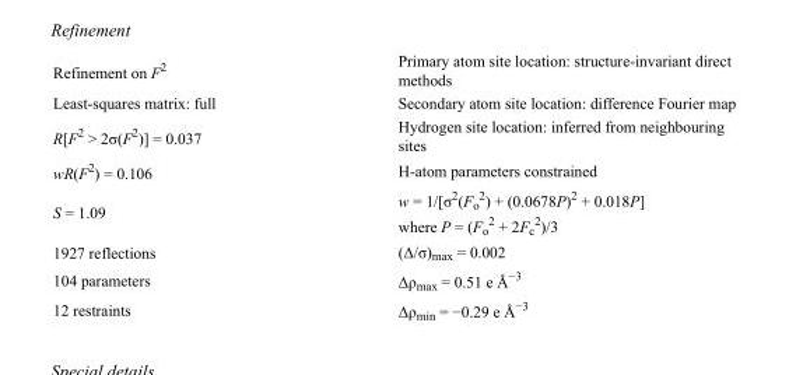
<table><tbody><tr><td>Refinement on F<sup>2</sup></td><td>Primary atom site location: structure-invariant direct methods</td></tr><tr><td>Least-squares matrix: full</td><td>Secondary atom site location: difference Fourier map</td></tr><tr><td>R[F<sup>2</sup> &gt; 2σ(F<sup>2</sup>)] = 0.037</td><td>Hydrogen site location: inferred from neighbouring sites</td></tr><tr><td>wR(F<sup>2</sup>) = 0.106</td><td>H-atom parameters constrained</td></tr><tr><td>S = 1.09</td><td>w = 1/[σ<sup>2</sup>(F<sub>o</sub> <sup>2</sup>) + (0.0678P)<sup>2</sup> + 0.018P] where P = (F<sub>o</sub> <sup>2</sup> + 2F<sub>c</sub> <sup>2</sup>)/3</td></tr><tr><td>1927 reflections</td><td>(Δ/σ)<sub>max</sub> = 0.002</td></tr><tr><td>104 parameters</td><td>Δρ<sub>max</sub> = 0.51 e Å<sup>−3</sup></td></tr><tr><td>12 restraints</td><td>Δρ<sub>min</sub> = −0.29 e Å<sup>−3</sup></td></tr></tbody></table>